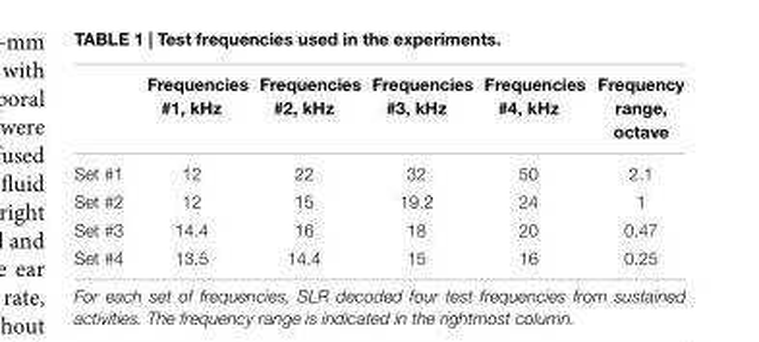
<table><thead><tr><td></td><td>Frequencies #1, kHz</td><td>Frequencies #2, kHz</td><td>Frequencies #3, kHz</td><td>Frequencies #4, kHz</td><td>Frequency range, octave</td></tr></thead><tbody><tr><td>Set #1</td><td>12</td><td>22</td><td>32</td><td>50</td><td>2.1</td></tr><tr><td>Set #2</td><td>12</td><td>15</td><td>19.2</td><td>24</td><td>1</td></tr><tr><td>Set #3</td><td>14.4</td><td>16</td><td>18</td><td>20</td><td>0.47</td></tr><tr><td>Set #4</td><td>13.5</td><td>14.4</td><td>15</td><td>16</td><td>0.25</td></tr></tbody></table>